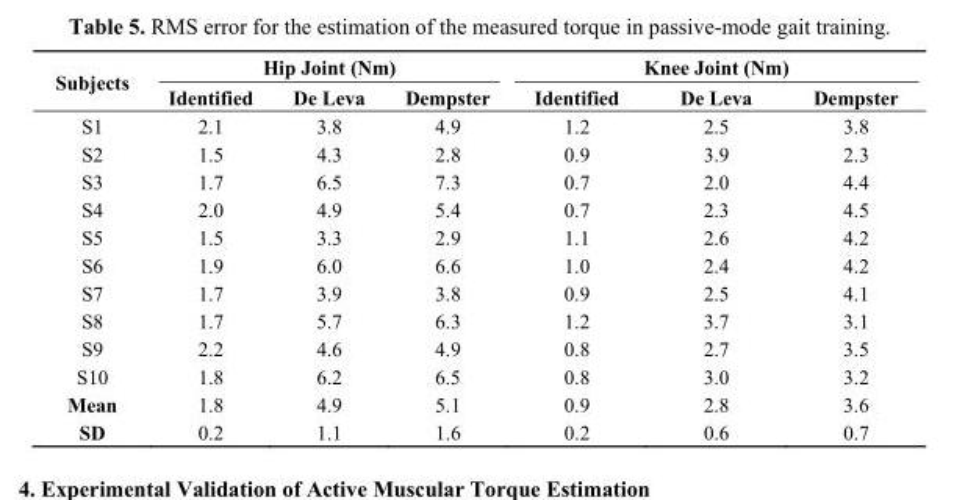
<table><thead><tr><td rowspan="2">Subjects</td><td colspan="3">Hip Joint (Nm)</td><td colspan="3">Knee Joint (Nm)</td></tr><tr><td>Identified</td><td>De Leva</td><td>Dempster</td><td>Identified</td><td>De Leva</td><td>Dempster</td></tr></thead><tbody><tr><td>S1</td><td>2.1</td><td>3.8</td><td>4.9</td><td>1.2</td><td>2.5</td><td>3.8</td></tr><tr><td>S2</td><td>1.5</td><td>4.3</td><td>2.8</td><td>0.9</td><td>3.9</td><td>2.3</td></tr><tr><td>S3</td><td>1.7</td><td>6.5</td><td>7.3</td><td>0.7</td><td>2.0</td><td>4.4</td></tr><tr><td>S4</td><td>2.0</td><td>4.9</td><td>5.4</td><td>0.7</td><td>2.3</td><td>4.5</td></tr><tr><td>S5</td><td>1.5</td><td>3.3</td><td>2.9</td><td>1.1</td><td>2.6</td><td>4.2</td></tr><tr><td>S6</td><td>1.9</td><td>6.0</td><td>6.6</td><td>1.0</td><td>2.4</td><td>4.2</td></tr><tr><td>S7</td><td>1.7</td><td>3.9</td><td>3.8</td><td>0.9</td><td>2.5</td><td>4.1</td></tr><tr><td>S8</td><td>1.7</td><td>5.7</td><td>6.3</td><td>1.2</td><td>3.7</td><td>3.1</td></tr><tr><td>S9</td><td>2.2</td><td>4.6</td><td>4.9</td><td>0.8</td><td>2.7</td><td>3.5</td></tr><tr><td>S10</td><td>1.8</td><td>6.2</td><td>6.5</td><td>0.8</td><td>3.0</td><td>3.2</td></tr><tr><td>Mean</td><td>1.8</td><td>4.9</td><td>5.1</td><td>0.9</td><td>2.8</td><td>3.6</td></tr><tr><td>SD</td><td>0.2</td><td>1.1</td><td>1.6</td><td>0.2</td><td>0.6</td><td>0.7</td></tr></tbody></table>